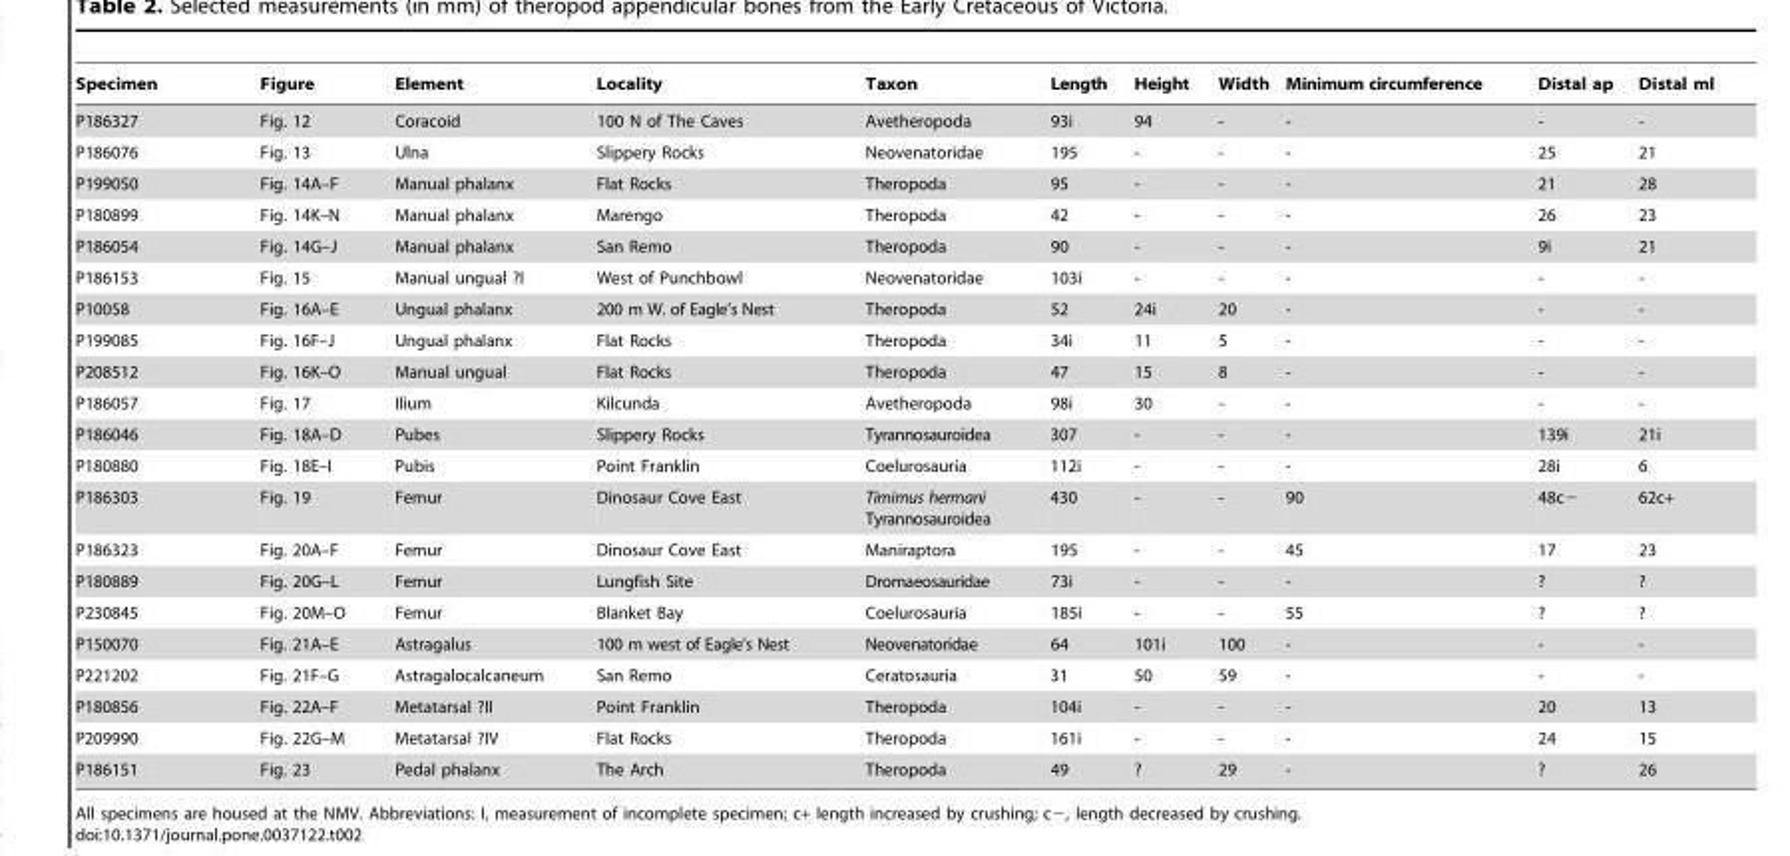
<table><thead><tr><td>Specimen</td><td>Figure</td><td>Element</td><td>Locality</td><td>Taxon</td><td>Length</td><td>Height</td><td>Width</td><td>Minimum circumference</td><td>Distal ap</td><td>Distal ml</td></tr></thead><tbody><tr><td>P186327</td><td>Fig. 12</td><td>Coracoid</td><td>100 N of The Caves</td><td>Avetheropoda</td><td>93i</td><td>94</td><td>-</td><td>-</td><td>-</td><td>-</td></tr><tr><td>P186076</td><td>Fig. 13</td><td>Ulna</td><td>Slippery Rocks</td><td>Neovenatoridae</td><td>195</td><td>-</td><td>-</td><td>-</td><td>25</td><td>21</td></tr><tr><td>P199050</td><td>Fig. 14A–F</td><td>Manual phalanx</td><td>Flat Rocks</td><td>Theropoda</td><td>95</td><td>-</td><td>-</td><td>-</td><td>21</td><td>28</td></tr><tr><td>P180899</td><td>Fig. 14K–N</td><td>Manual phalanx</td><td>Marengo</td><td>Theropoda</td><td>42</td><td>-</td><td>-</td><td>-</td><td>26</td><td>23</td></tr><tr><td>P186054</td><td>Fig. 14G–J</td><td>Manual phalanx</td><td>San Remo</td><td>Theropoda</td><td>90</td><td>-</td><td>-</td><td>-</td><td>9i</td><td>21</td></tr><tr><td>P186153</td><td>Fig. 15</td><td>Manual ungual ?I</td><td>West of Punchbowl</td><td>Neovenatoridae</td><td>103i</td><td>-</td><td>-</td><td>-</td><td>-</td><td>-</td></tr><tr><td>P10058</td><td>Fig. 16A–E</td><td>Ungual phalanx</td><td>200 m W. of Eagle’s Nest</td><td>Theropoda</td><td>52</td><td>24i</td><td>20</td><td>-</td><td>-</td><td>-</td></tr><tr><td>P199085</td><td>Fig. 16F–J</td><td>Ungual phalanx</td><td>Flat Rocks</td><td>Theropoda</td><td>34i</td><td>11</td><td>5</td><td>-</td><td>-</td><td>-</td></tr><tr><td>P208512</td><td>Fig. 16K–O</td><td>Manual ungual</td><td>Flat Rocks</td><td>Theropoda</td><td>47</td><td>15</td><td>8</td><td>-</td><td>-</td><td>-</td></tr><tr><td>P186057</td><td>Fig. 17</td><td>Ilium</td><td>Kilcunda</td><td>Avetheropoda</td><td>98i</td><td>30</td><td>-</td><td>-</td><td>-</td><td>-</td></tr><tr><td>P186046</td><td>Fig. 18A–D</td><td>Pubes</td><td>Slippery Rocks</td><td>Tyrannosauroidea</td><td>307</td><td>-</td><td>-</td><td>-</td><td>139i</td><td>21i</td></tr><tr><td>P180880</td><td>Fig. 18E–I</td><td>Pubis</td><td>Point Franklin</td><td>Coelurosauria</td><td>112i</td><td>-</td><td>-</td><td>-</td><td>28i</td><td>6</td></tr><tr><td>P186303</td><td>Fig. 19</td><td>Femur</td><td>Dinosaur Cove East</td><td>Timimus hermani Tyrannosauroidea</td><td>430</td><td>-</td><td>-</td><td>90</td><td>48c−</td><td>62c+</td></tr><tr><td>P186323</td><td>Fig. 20A–F</td><td>Femur</td><td>Dinosaur Cove East</td><td>Maniraptora</td><td>195</td><td>-</td><td>-</td><td>45</td><td>17</td><td>23</td></tr><tr><td>P180889</td><td>Fig. 20G–L</td><td>Femur</td><td>Lungfish Site</td><td>Dromaeosauridae</td><td>73i</td><td>-</td><td>-</td><td>-</td><td>?</td><td>?</td></tr><tr><td>P230845</td><td>Fig. 20M–O</td><td>Femur</td><td>Blanket Bay</td><td>Coelurosauria</td><td>185i</td><td>-</td><td>-</td><td>55</td><td>?</td><td>?</td></tr><tr><td>P150070</td><td>Fig. 21A–E</td><td>Astragalus</td><td>100 m west of Eagle’s Nest</td><td>Neovenatoridae</td><td>64</td><td>101i</td><td>100</td><td>-</td><td>-</td><td>-</td></tr><tr><td>P221202</td><td>Fig. 21F–G</td><td>Astragalocalcaneum</td><td>San Remo</td><td>Ceratosauria</td><td>31</td><td>50</td><td>59</td><td>-</td><td>-</td><td>-</td></tr><tr><td>P180856</td><td>Fig. 22A–F</td><td>Metatarsal ?II</td><td>Point Franklin</td><td>Theropoda</td><td>104i</td><td>-</td><td>-</td><td>-</td><td>20</td><td>13</td></tr><tr><td>P209990</td><td>Fig. 22G–M</td><td>Metatarsal ?IV</td><td>Flat Rocks</td><td>Theropoda</td><td>161i</td><td>-</td><td>-</td><td>-</td><td>24</td><td>15</td></tr><tr><td>P186151</td><td>Fig. 23</td><td>Pedal phalanx</td><td>The Arch</td><td>Theropoda</td><td>49</td><td>?</td><td>29</td><td>-</td><td>?</td><td>26</td></tr></tbody></table>